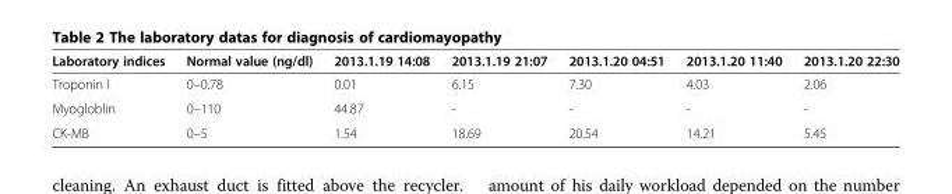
<table><thead><tr><td>Laboratory indices</td><td>Normal value (ng/dl)</td><td>2013.1.19 14:08</td><td>2013.1.19 21:07</td><td>2013.1.20 04:51</td><td>2013.1.20 11:40</td><td>2013.1.20 22:30</td></tr></thead><tbody><tr><td>Troponin I</td><td>0–0.78</td><td>0.01</td><td>6.15</td><td>7.30</td><td>4.03</td><td>2.06</td></tr><tr><td>Myogloblin</td><td>0–110</td><td>44.87</td><td>-</td><td>-</td><td>-</td><td>-</td></tr><tr><td>CK-MB</td><td>0–5</td><td>1.54</td><td>18.69</td><td>20.54</td><td>14.21</td><td>5.45</td></tr></tbody></table>